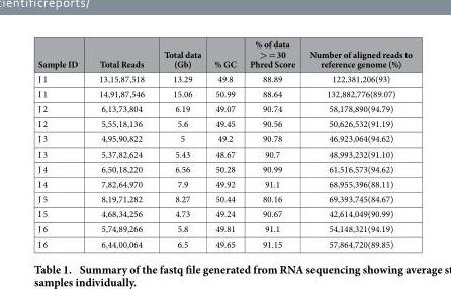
<table><thead><tr><td>Sample ID</td><td>Total Reads</td><td>Total data (Gb)</td><td>% GC</td><td>% of data &gt; = 30 Phred Score</td><td>Number of aligned reads to reference genome (%)</td></tr></thead><tbody><tr><td>J 1</td><td>13,15,87,518</td><td>13.29</td><td>49.8</td><td>88.89</td><td>122,381,206(93)</td></tr><tr><td>I 1</td><td>14,91,87,546</td><td>15.06</td><td>50.99</td><td>88.64</td><td>132,882,776(89.07)</td></tr><tr><td>J 2</td><td>6,13,73,804</td><td>6.19</td><td>49.07</td><td>90.74</td><td>58,178,890(94.79)</td></tr><tr><td>I 2</td><td>5,55,18,136</td><td>5.6</td><td>49.45</td><td>90.56</td><td>50,626,532(91.19)</td></tr><tr><td>J 3</td><td>4,95,90,822</td><td>5</td><td>49.2</td><td>90.78</td><td>46,923,064(94.62)</td></tr><tr><td>I 3</td><td>5,37,82,624</td><td>5.43</td><td>48.67</td><td>90.7</td><td>48,993,232(91.10)</td></tr><tr><td>J 4</td><td>6,50,18,220</td><td>6.56</td><td>50.28</td><td>90.99</td><td>61,516,573(94.62)</td></tr><tr><td>I 4</td><td>7,82,64,970</td><td>7.9</td><td>49.92</td><td>91.1</td><td>68,955,396(88.11)</td></tr><tr><td>J 5</td><td>8,19,71,282</td><td>8.27</td><td>50.44</td><td>80.16</td><td>69,393,745(84.67)</td></tr><tr><td>I 5</td><td>4,68,34,256</td><td>4.73</td><td>49.24</td><td>90.67</td><td>42,614,049(90.99)</td></tr><tr><td>J 6</td><td>5,74,89,266</td><td>5.8</td><td>49.81</td><td>91.1</td><td>54,148,321(94.19)</td></tr><tr><td>I 6</td><td>6,44,00,064</td><td>6.5</td><td>49.65</td><td>91.15</td><td>57,864,720(89.85)</td></tr></tbody></table>